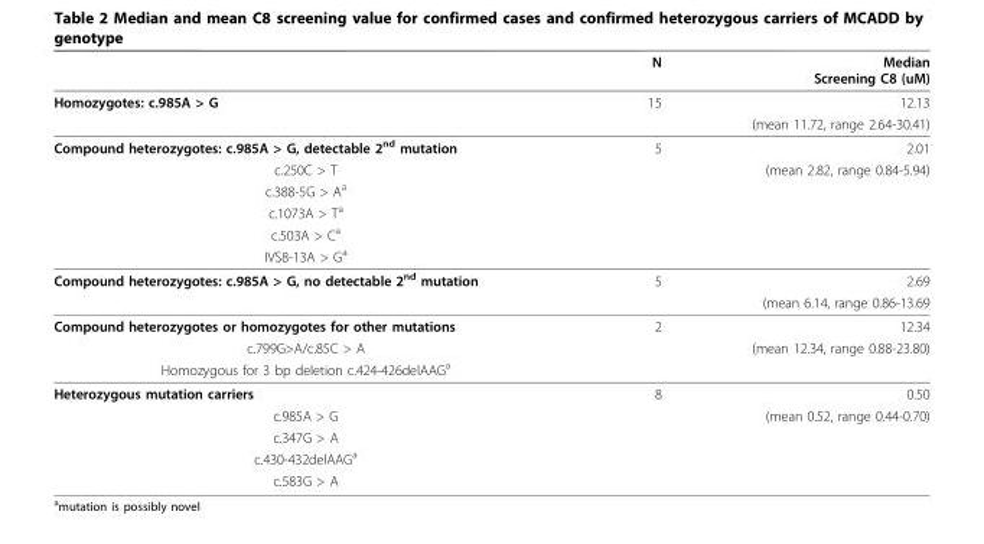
<table><thead><tr><td></td><td>N</td><td>Median Screening C8 (uM)</td></tr></thead><tbody><tr><td rowspan="2">Homozygotes: c.985A &gt; G</td><td>15</td><td>12.13</td></tr><tr><td></td><td>(mean 11.72, range 2.64-30.41)</td></tr><tr><td>Compound heterozygotes: c.985A &gt; G, detectable 2<sup>nd</sup> mutation</td><td>5</td><td>2.01</td></tr><tr><td>c.250C &gt; T</td><td></td><td>(mean 2.82, range 0.84-5.94)</td></tr><tr><td colspan="3">c.388-5G &gt; A<sup>a</sup></td></tr><tr><td colspan="3">c.1073A &gt; T<sup>a</sup></td></tr><tr><td colspan="3">c.503A &gt; C<sup>a</sup></td></tr><tr><td colspan="3">IVS8-13A &gt; G<sup>a</sup></td></tr><tr><td rowspan="2">Compound heterozygotes: c.985A &gt; G, no detectable 2<sup>nd</sup> mutation</td><td>5</td><td>2.69</td></tr><tr><td></td><td>(mean 6.14, range 0.86-13.69</td></tr><tr><td>Compound heterozygotes or homozygotes for other mutations</td><td>2</td><td>12.34</td></tr><tr><td>c.799G&gt;A/c.85C &gt; A</td><td></td><td>(mean 12.34, range 0.88-23.80)</td></tr><tr><td colspan="3">Homozygous for 3 bp deletion c.424-426delAAG<sup>a</sup></td></tr><tr><td>Heterozygous mutation carriers</td><td>8</td><td>0.50</td></tr><tr><td>c.985A &gt; G</td><td></td><td>(mean 0.52, range 0.44-0.70)</td></tr><tr><td colspan="3">c.347G &gt; A</td></tr><tr><td colspan="3">c.430-432delAAG<sup>a</sup></td></tr><tr><td>c.583G &gt; A</td><td></td><td></td></tr></tbody></table>